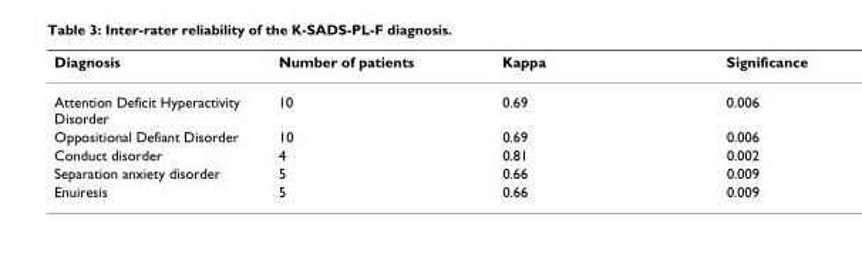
<table><thead><tr><td>Diagnosis</td><td>Number of patients</td><td>Kappa</td><td>Significance</td></tr></thead><tbody><tr><td>Attention Deficit Hyperactivity Disorder</td><td>10</td><td>0.69</td><td>0.006</td></tr><tr><td>Oppositional Defiant Disorder</td><td>10</td><td>0.69</td><td>0.006</td></tr><tr><td>Conduct disorder</td><td>4</td><td>0.81</td><td>0.002</td></tr><tr><td>Separation anxiety disorder</td><td>5</td><td>0.66</td><td>0.009</td></tr><tr><td>Enuiresis</td><td>5</td><td>0.66</td><td>0.009</td></tr></tbody></table>